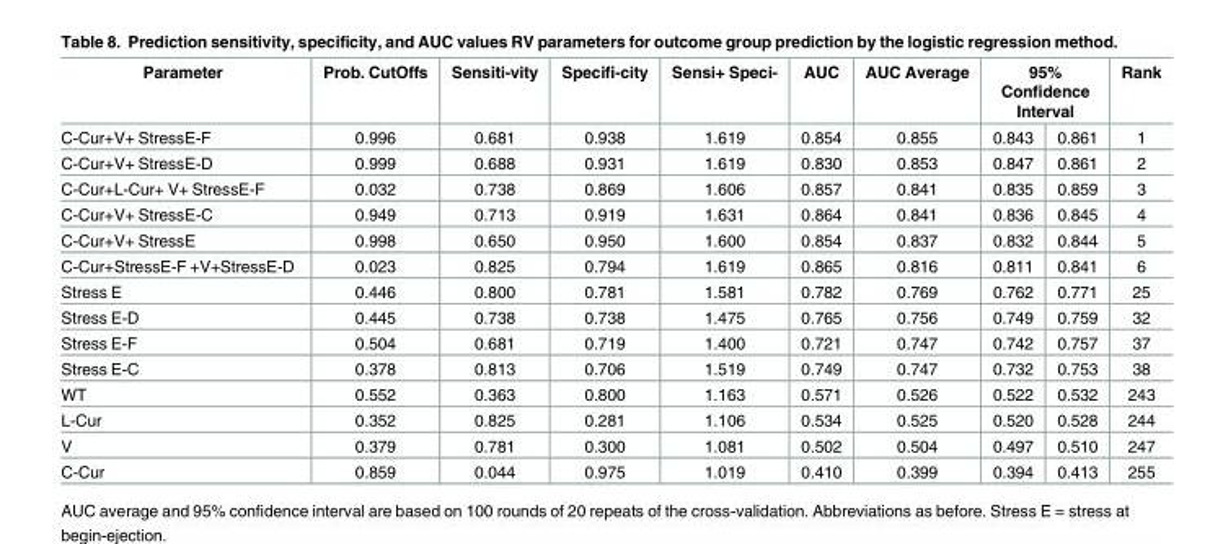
<table><thead><tr><td rowspan="2">Parameter C-Cur+V+ StressE-F</td><td rowspan="2">Prob. CutOffs 0.996</td><td rowspan="2">Sensiti-vity 0.681</td><td rowspan="2">Specifi-city 0.938</td><td rowspan="2">Sensi+ Speci- 1.619</td><td rowspan="2">AUC 0.854</td><td rowspan="2">AUC Average 0.855</td><td colspan="2">95% Confidence Interval</td><td rowspan="2">Rank 1</td></tr><tr><td>0.843</td><td>0.861</td></tr></thead><tbody><tr><td>C-Cur+V+ StressE-D</td><td>0.999</td><td>0.688</td><td>0.931</td><td>1.619</td><td>0.830</td><td>0.853</td><td>0.847</td><td>0.861</td><td>2</td></tr><tr><td>C-Cur+L-Cur+ V+ StressE-F</td><td>0.032</td><td>0.738</td><td>0.869</td><td>1.606</td><td>0.857</td><td>0.841</td><td>0.835</td><td>0.859</td><td>3</td></tr><tr><td>C-Cur+V+ StressE-C</td><td>0.949</td><td>0.713</td><td>0.919</td><td>1.631</td><td>0.864</td><td>0.841</td><td>0.836</td><td>0.845</td><td>4</td></tr><tr><td>C-Cur+V+ StressE</td><td>0.998</td><td>0.650</td><td>0.950</td><td>1.600</td><td>0.854</td><td>0.837</td><td>0.832</td><td>0.844</td><td>5</td></tr><tr><td>C-Cur+StressE-F +V+StressE-D</td><td>0.023</td><td>0.825</td><td>0.794</td><td>1.619</td><td>0.865</td><td>0.816</td><td>0.811</td><td>0.841</td><td>6</td></tr><tr><td>Stress E</td><td>0.446</td><td>0.800</td><td>0.781</td><td>1.581</td><td>0.782</td><td>0.769</td><td>0.762</td><td>0.771</td><td>25</td></tr><tr><td>Stress E-D</td><td>0.445</td><td>0.738</td><td>0.738</td><td>1.475</td><td>0.765</td><td>0.756</td><td>0.749</td><td>0.759</td><td>32</td></tr><tr><td>Stress E-F</td><td>0.504</td><td>0.681</td><td>0.719</td><td>1.400</td><td>0.721</td><td>0.747</td><td>0.742</td><td>0.757</td><td>37</td></tr><tr><td>Stress E-C</td><td>0.378</td><td>0.813</td><td>0.706</td><td>1.519</td><td>0.749</td><td>0.747</td><td>0.732</td><td>0.753</td><td>38</td></tr><tr><td>WT</td><td>0.552</td><td>0.363</td><td>0.800</td><td>1.163</td><td>0.571</td><td>0.526</td><td>0.522</td><td>0.532</td><td>243</td></tr><tr><td>L-Cur</td><td>0.352</td><td>0.825</td><td>0.281</td><td>1.106</td><td>0.534</td><td>0.525</td><td>0.520</td><td>0.528</td><td>244</td></tr><tr><td>V</td><td>0.379</td><td>0.781</td><td>0.300</td><td>1.081</td><td>0.502</td><td>0.504</td><td>0.497</td><td>0.510</td><td>247</td></tr><tr><td>C-Cur</td><td>0.859</td><td>0.044</td><td>0.975</td><td>1.019</td><td>0.410</td><td>0.399</td><td>0.394</td><td>0.413</td><td>255</td></tr></tbody></table>